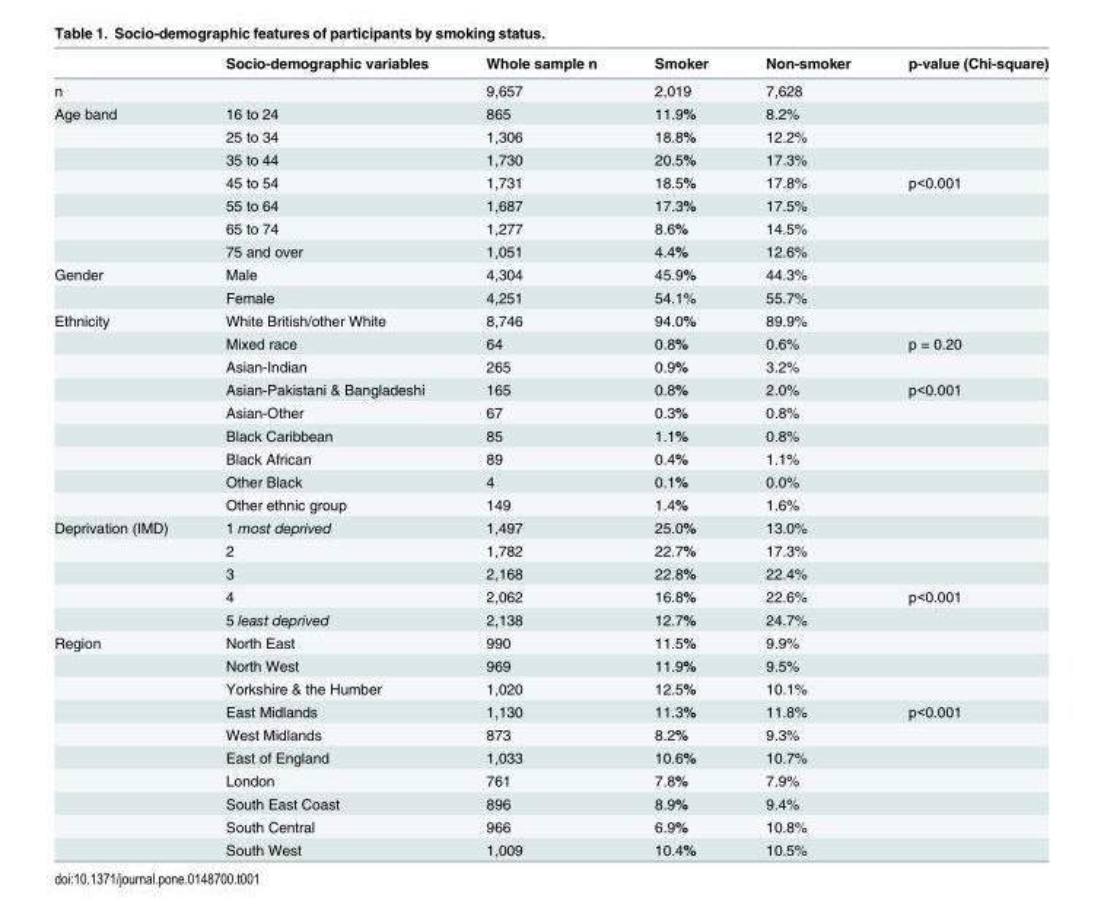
<table><thead><tr><td rowspan="2">n</td><td rowspan="2">Socio-demographic variables</td><td rowspan="2">Whole sample n 9,657</td><td rowspan="2">Smoker 2,019</td><td rowspan="2">Non-smoker 7,628</td><td rowspan="2">p-value (Chi-square)</td></tr><tr></tr></thead><tbody><tr><td rowspan="7">Age band</td><td>16 to 24</td><td>865</td><td>11.9%</td><td>8.2%</td><td></td></tr><tr><td>25 to 34</td><td>1,306</td><td>18.8%</td><td>12.2%</td><td></td></tr><tr><td>35 to 44</td><td>1,730</td><td>20.5%</td><td>17.3%</td><td></td></tr><tr><td>45 to 54</td><td>1,731</td><td>18.5%</td><td>17.8%</td><td>p&lt;0.001</td></tr><tr><td>55 to 64</td><td>1,687</td><td>17.3%</td><td>17.5%</td><td></td></tr><tr><td>65 to 74</td><td>1,277</td><td>8.6%</td><td>14.5%</td><td></td></tr><tr><td>75 and over</td><td>1,051</td><td>4.4%</td><td>12.6%</td><td></td></tr><tr><td rowspan="2">Gender</td><td>Male</td><td>4,304</td><td>45.9%</td><td>44.3%</td><td></td></tr><tr><td>Female</td><td>4,251</td><td>54.1%</td><td>55.7%</td><td></td></tr><tr><td rowspan="9">Ethnicity</td><td>White British/other White</td><td>8,746</td><td>94.0%</td><td>89.9%</td><td></td></tr><tr><td>Mixed race</td><td>64</td><td>0.8%</td><td>0.6%</td><td>p = 0.20</td></tr><tr><td>Asian-Indian</td><td>265</td><td>0.9%</td><td>3.2%</td><td></td></tr><tr><td>Asian-Pakistani &amp; Bangladeshi</td><td>165</td><td>0.8%</td><td>2.0%</td><td>p&lt;0.001</td></tr><tr><td>Asian-Other</td><td>67</td><td>0.3%</td><td>0.8%</td><td></td></tr><tr><td>Black Caribbean</td><td>85</td><td>1.1%</td><td>0.8%</td><td></td></tr><tr><td>Black African</td><td>89</td><td>0.4%</td><td>1.1%</td><td></td></tr><tr><td>Other Black</td><td>4</td><td>0.1%</td><td>0.0%</td><td></td></tr><tr><td>Other ethnic group</td><td>149</td><td>1.4%</td><td>1.6%</td><td></td></tr><tr><td rowspan="5">Deprivation (IMD)</td><td>1 most deprived</td><td>1,497</td><td>25.0%</td><td>13.0%</td><td></td></tr><tr><td>2</td><td>1,782</td><td>22.7%</td><td>17.3%</td><td></td></tr><tr><td>3</td><td>2,168</td><td>22.8%</td><td>22.4%</td><td></td></tr><tr><td>4</td><td>2,062</td><td>16.8%</td><td>22.6%</td><td>p&lt;0.001</td></tr><tr><td>5 least deprived</td><td>2,138</td><td>12.7%</td><td>24.7%</td><td></td></tr><tr><td rowspan="10">Region</td><td>North East</td><td>990</td><td>11.5%</td><td>9.9%</td><td></td></tr><tr><td>North West</td><td>969</td><td>11.9%</td><td>9.5%</td><td></td></tr><tr><td>Yorkshire &amp; the Humber</td><td>1,020</td><td>12.5%</td><td>10.1%</td><td></td></tr><tr><td>East Midlands</td><td>1,130</td><td>11.3%</td><td>11.8%</td><td>p&lt;0.001</td></tr><tr><td>West Midlands</td><td>873</td><td>8.2%</td><td>9.3%</td><td></td></tr><tr><td>East of England</td><td>1,033</td><td>10.6%</td><td>10.7%</td><td></td></tr><tr><td>London</td><td>761</td><td>7.8%</td><td>7.9%</td><td></td></tr><tr><td>South East Coast</td><td>896</td><td>8.9%</td><td>9.4%</td><td></td></tr><tr><td>South Central</td><td>966</td><td>6.9%</td><td>10.8%</td><td></td></tr><tr><td>South West</td><td>1,009</td><td>10.4%</td><td>10.5%</td><td></td></tr></tbody></table>